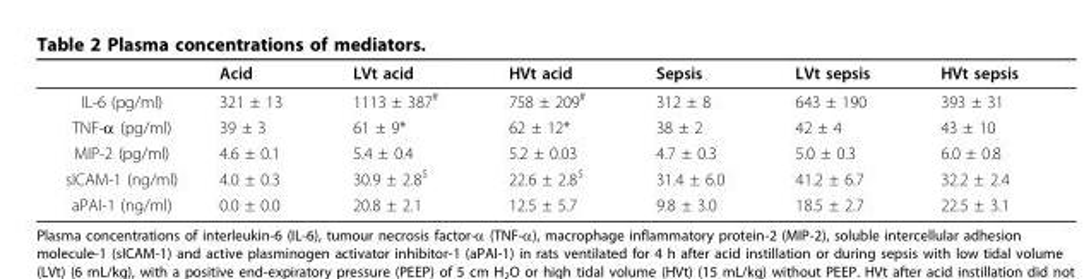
<table><thead><tr><td></td><td>Acid</td><td>LVt acid</td><td>HVt acid</td><td>Sepsis</td><td>LVt sepsis</td><td>HVt sepsis</td></tr></thead><tbody><tr><td>IL-6 (pg/ml)</td><td>321 ± 13</td><td>1113 ± 387<sup>#</sup></td><td>758 ± 209<sup>#</sup></td><td>312 ± 8</td><td>643 ± 190</td><td>393 ± 31</td></tr><tr><td>TNF-α (pg/ml)</td><td>39 ± 3</td><td>61 ± 9*</td><td>62 ± 12*</td><td>38 ± 2</td><td>42 ± 4</td><td>43 ± 10</td></tr><tr><td>MIP-2 (pg/ml)</td><td>4.6 ± 0.1</td><td>5.4 ± 0.4</td><td>5.2 ± 0.03</td><td>4.7 ± 0.3</td><td>5.0 ± 0.3</td><td>6.0 ± 0.8</td></tr><tr><td>sICAM-1 (ng/ml)</td><td>4.0 ± 0.3</td><td>30.9 ± 2.8<sup>$</sup></td><td>22.6 ± 2.8<sup>$</sup></td><td>31.4 ± 6.0</td><td>41.2 ± 6.7</td><td>32.2 ± 2.4</td></tr><tr><td>aPAI-1 (ng/ml)</td><td>0.0 ± 0.0</td><td>20.8 ± 2.1</td><td>12.5 ± 5.7</td><td>9.8 ± 3.0</td><td>18.5 ± 2.7</td><td>22.5 ± 3.1</td></tr></tbody></table>